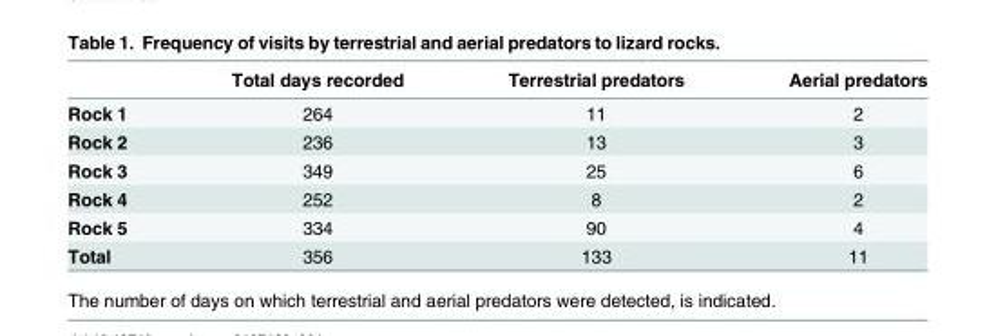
<table><thead><tr><td></td><td>Total days recorded</td><td>Terrestrial predators</td><td>Aerial predators</td></tr></thead><tbody><tr><td>Rock 1</td><td>264</td><td>11</td><td>2</td></tr><tr><td>Rock 2</td><td>236</td><td>13</td><td>3</td></tr><tr><td>Rock 3</td><td>349</td><td>25</td><td>6</td></tr><tr><td>Rock 4</td><td>252</td><td>8</td><td>2</td></tr><tr><td>Rock 5</td><td>334</td><td>90</td><td>4</td></tr><tr><td>Total</td><td>356</td><td>133</td><td>11</td></tr></tbody></table>